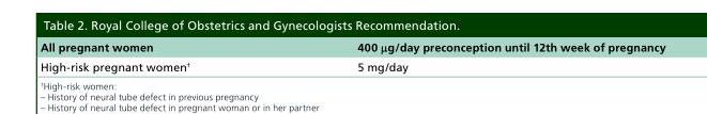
<table><thead><tr><td>All pregnant women</td><td>400 μg/day preconception until 12th week of pregnancy</td></tr></thead><tbody><tr><td>High-risk pregnant women<sup>†</sup></td><td>5 mg/day</td></tr></tbody></table>